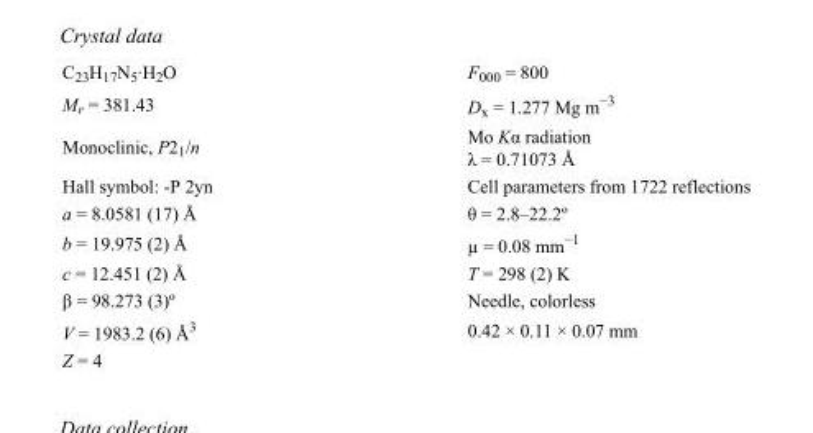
<table><tbody><tr><td>C<sub>23</sub>H<sub>17</sub>N<sub>5</sub>·H<sub>2</sub>O</td><td>F<sub>000</sub> = 800</td></tr><tr><td>M<sub>r</sub> = 381.43</td><td>D<sub>x</sub> = 1.277 Mg m<sup>−3</sup></td></tr><tr><td>Monoclinic, P2<sub>1</sub>/n</td><td>Mo Kα radiation λ = 0.71073 Å</td></tr><tr><td>Hall symbol: -P 2yn</td><td>Cell parameters from 1722 reflections</td></tr><tr><td>a = 8.0581 (17) Å</td><td>θ = 2.8–22.2º</td></tr><tr><td>b = 19.975 (2) Å</td><td>µ = 0.08 mm<sup>−1</sup></td></tr><tr><td>c = 12.451 (2) Å</td><td>T = 298 (2) K</td></tr><tr><td>β = 98.273 (3)º</td><td>Needle, colorless</td></tr><tr><td>V = 1983.2 (6) Å<sup>3</sup></td><td>0.42 × 0.11 × 0.07 mm</td></tr><tr><td>Z = 4</td><td></td></tr></tbody></table>